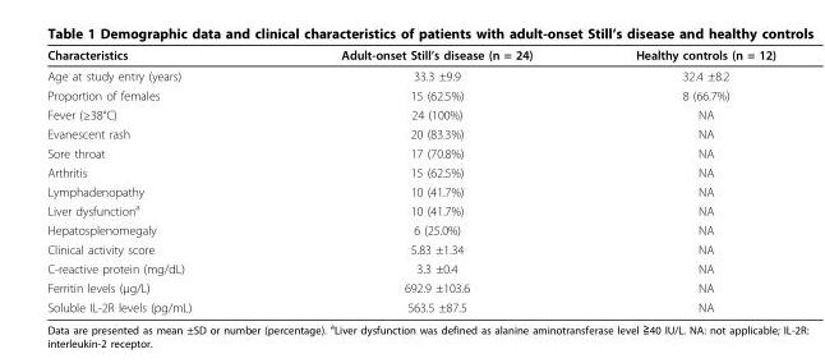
<table><thead><tr><td>Characteristics</td><td>Adult-onset Still’s disease (n = 24)</td><td>Healthy controls (n = 12)</td></tr></thead><tbody><tr><td>Age at study entry (years)</td><td>33.3 ±9.9</td><td>32.4 ±8.2</td></tr><tr><td>Proportion of females</td><td>15 (62.5%)</td><td>8 (66.7%)</td></tr><tr><td>Fever (≥38°C)</td><td>24 (100%)</td><td>NA</td></tr><tr><td>Evanescent rash</td><td>20 (83.3%)</td><td>NA</td></tr><tr><td>Sore throat</td><td>17 (70.8%)</td><td>NA</td></tr><tr><td>Arthritis</td><td>15 (62.5%)</td><td>NA</td></tr><tr><td>Lymphadenopathy</td><td>10 (41.7%)</td><td>NA</td></tr><tr><td>Liver dysfunction<sup>a</sup></td><td>10 (41.7%)</td><td>NA</td></tr><tr><td>Hepatosplenomegaly</td><td>6 (25.0%)</td><td>NA</td></tr><tr><td>Clinical activity score</td><td>5.83 ±1.34</td><td>NA</td></tr><tr><td>C-reactive protein (mg/dL)</td><td>3.3 ±0.4</td><td>NA</td></tr><tr><td>Ferritin levels (μg/L)</td><td>692.9 ±103.6</td><td>NA</td></tr><tr><td>Soluble IL-2R levels (pg/mL)</td><td>563.5 ±87.5</td><td>NA</td></tr></tbody></table>